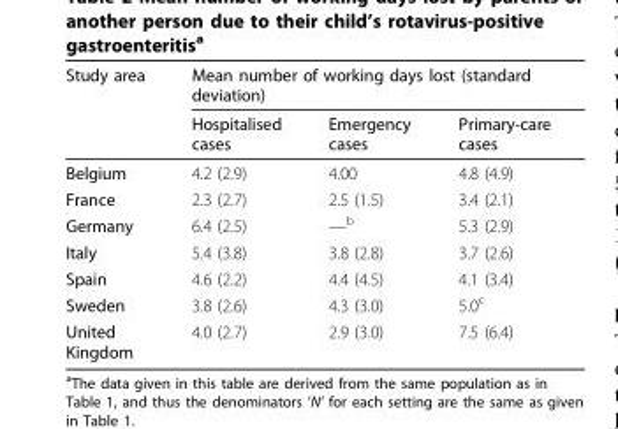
<table><thead><tr><td rowspan="2">Study area</td><td colspan="3">Mean number of working days lost (standard deviation)</td></tr><tr><td>Hospitalised cases</td><td>Emergency cases</td><td>Primary-care cases</td></tr></thead><tbody><tr><td>Belgium</td><td>4.2 (2.9)</td><td>4.00</td><td>4.8 (4.9)</td></tr><tr><td>France</td><td>2.3 (2.7)</td><td>2.5 (1.5)</td><td>3.4 (2.1)</td></tr><tr><td>Germany</td><td>6.4 (2.5)</td><td>—b</td><td>5.3 (2.9)</td></tr><tr><td>Italy</td><td>5.4 (3.8)</td><td>3.8 (2.8)</td><td>3.7 (2.6)</td></tr><tr><td>Spain</td><td>4.6 (2.2)</td><td>4.4 (4.5)</td><td>4.1 (3.4)</td></tr><tr><td>Sweden</td><td>3.8 (2.6)</td><td>4.3 (3.0)</td><td>5.0<sup>c</sup></td></tr><tr><td>United Kingdom</td><td>4.0 (2.7)</td><td>2.9 (3.0)</td><td>7.5 (6.4)</td></tr></tbody></table>